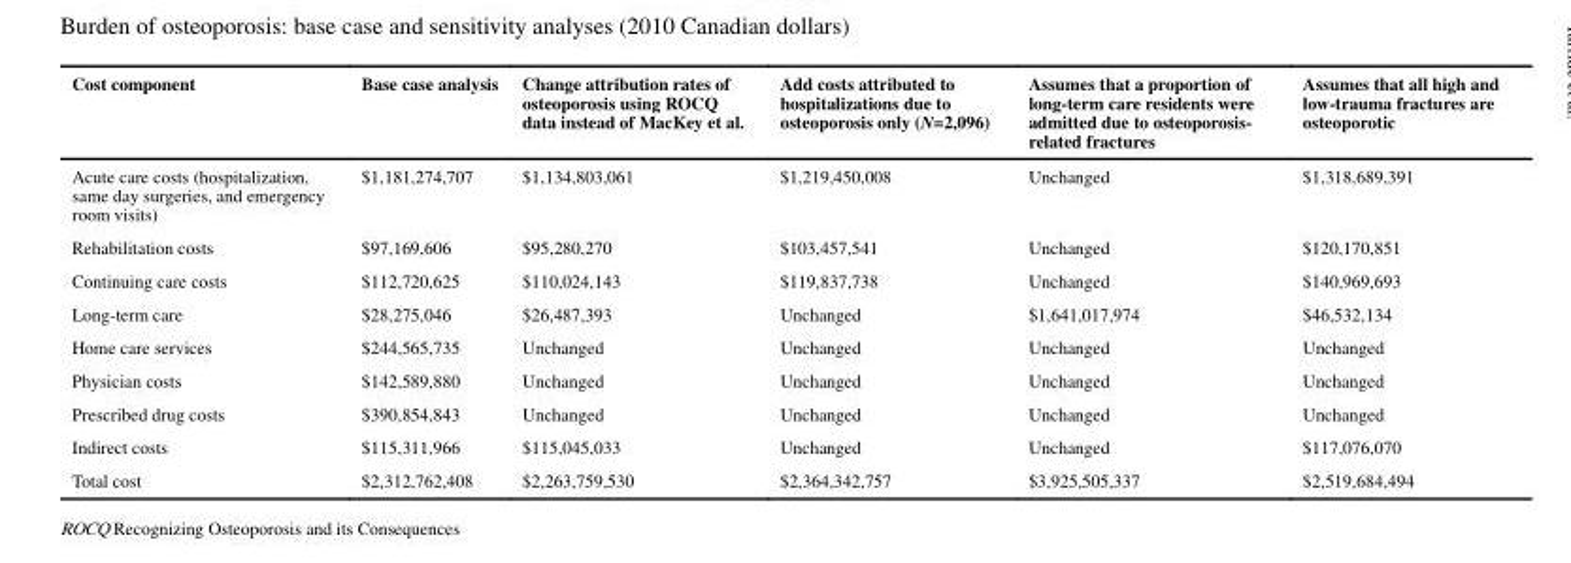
<table><thead><tr><td>Cost component</td><td>Base case analysis</td><td>Change attribution rates of osteoporosis using ROCQ data instead of MacKey et al.</td><td>Add costs attributed to hospitalizations due to osteoporosis only (N=2,096)</td><td>Assumes that a proportion of long-term care residents were admitted due to osteoporosis- related fractures</td><td>Assumes that all high and low-trauma fractures are osteoporotic</td></tr></thead><tbody><tr><td>Acute care costs (hospitalization, same day surgeries, and emergency room visits)</td><td>$1,181,274,707</td><td>$1,134,803,061</td><td>$1,219,450,008</td><td>Unchanged</td><td>$1,318,689,391</td></tr><tr><td>Rehabilitation costs</td><td>$97,169,606</td><td>$95,280,270</td><td>$103,457,541</td><td>Unchanged</td><td>$120,170,851</td></tr><tr><td>Continuing care costs</td><td>$112,720,625</td><td>$110,024,143</td><td>$119,837,738</td><td>Unchanged</td><td>$140,969,693</td></tr><tr><td>Long-term care</td><td>$28,275,046</td><td>$26,487,393</td><td>Unchanged</td><td>$1,641,017,974</td><td>$46,532,134</td></tr><tr><td>Home care services</td><td>$244,565,735</td><td>Unchanged</td><td>Unchanged</td><td>Unchanged</td><td>Unchanged</td></tr><tr><td>Physician costs</td><td>$142,589,880</td><td>Unchanged</td><td>Unchanged</td><td>Unchanged</td><td>Unchanged</td></tr><tr><td>Prescribed drug costs</td><td>$390,854,843</td><td>Unchanged</td><td>Unchanged</td><td>Unchanged</td><td>Unchanged</td></tr><tr><td>Indirect costs</td><td>$115,311,966</td><td>$115,045,033</td><td>Unchanged</td><td>Unchanged</td><td>$117,076,070</td></tr><tr><td>Total cost</td><td>$2,312,762,408</td><td>$2,263,759,530</td><td>$2,364,342,757</td><td>$3,925,505,337</td><td>$2,519,684,494</td></tr></tbody></table>